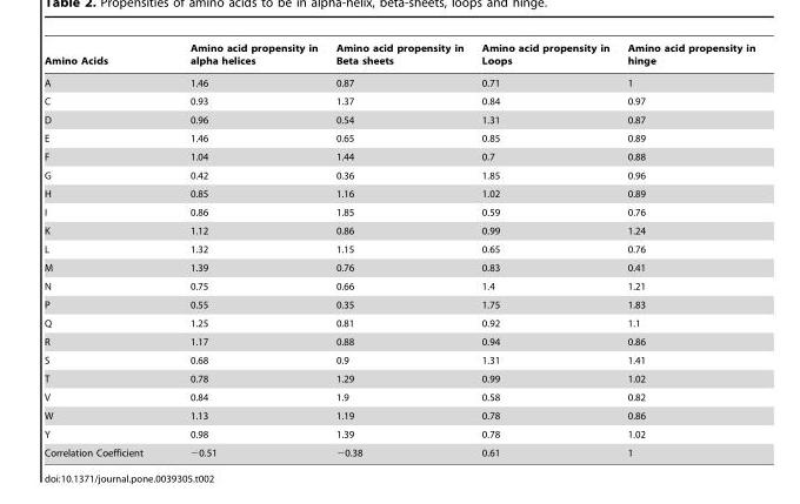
<table><thead><tr><td>Amino Acids</td><td>Amino acid propensity in alpha helices</td><td>Amino acid propensity in Beta sheets</td><td>Amino acid propensity in Loops</td><td>Amino acid propensity in hinge</td></tr></thead><tbody><tr><td>A</td><td>1.46</td><td>0.87</td><td>0.71</td><td>1</td></tr><tr><td>C</td><td>0.93</td><td>1.37</td><td>0.84</td><td>0.97</td></tr><tr><td>D</td><td>0.96</td><td>0.54</td><td>1.31</td><td>0.87</td></tr><tr><td>E</td><td>1.46</td><td>0.65</td><td>0.85</td><td>0.89</td></tr><tr><td>F</td><td>1.04</td><td>1.44</td><td>0.7</td><td>0.88</td></tr><tr><td>G</td><td>0.42</td><td>0.36</td><td>1.85</td><td>0.96</td></tr><tr><td>H</td><td>0.85</td><td>1.16</td><td>1.02</td><td>0.89</td></tr><tr><td>I</td><td>0.86</td><td>1.85</td><td>0.59</td><td>0.76</td></tr><tr><td>K</td><td>1.12</td><td>0.86</td><td>0.99</td><td>1.24</td></tr><tr><td>L</td><td>1.32</td><td>1.15</td><td>0.65</td><td>0.76</td></tr><tr><td>M</td><td>1.39</td><td>0.76</td><td>0.83</td><td>0.41</td></tr><tr><td>N</td><td>0.75</td><td>0.66</td><td>1.4</td><td>1.21</td></tr><tr><td>P</td><td>0.55</td><td>0.35</td><td>1.75</td><td>1.83</td></tr><tr><td>Q</td><td>1.25</td><td>0.81</td><td>0.92</td><td>1.1</td></tr><tr><td>R</td><td>1.17</td><td>0.88</td><td>0.94</td><td>0.86</td></tr><tr><td>S</td><td>0.68</td><td>0.9</td><td>1.31</td><td>1.41</td></tr><tr><td>T</td><td>0.78</td><td>1.29</td><td>0.99</td><td>1.02</td></tr><tr><td>V</td><td>0.84</td><td>1.9</td><td>0.58</td><td>0.82</td></tr><tr><td>W</td><td>1.13</td><td>1.19</td><td>0.78</td><td>0.86</td></tr><tr><td>Y</td><td>0.98</td><td>1.39</td><td>0.78</td><td>1.02</td></tr><tr><td>Correlation Coefficient</td><td>−0.51</td><td>−0.38</td><td>0.61</td><td>1</td></tr></tbody></table>